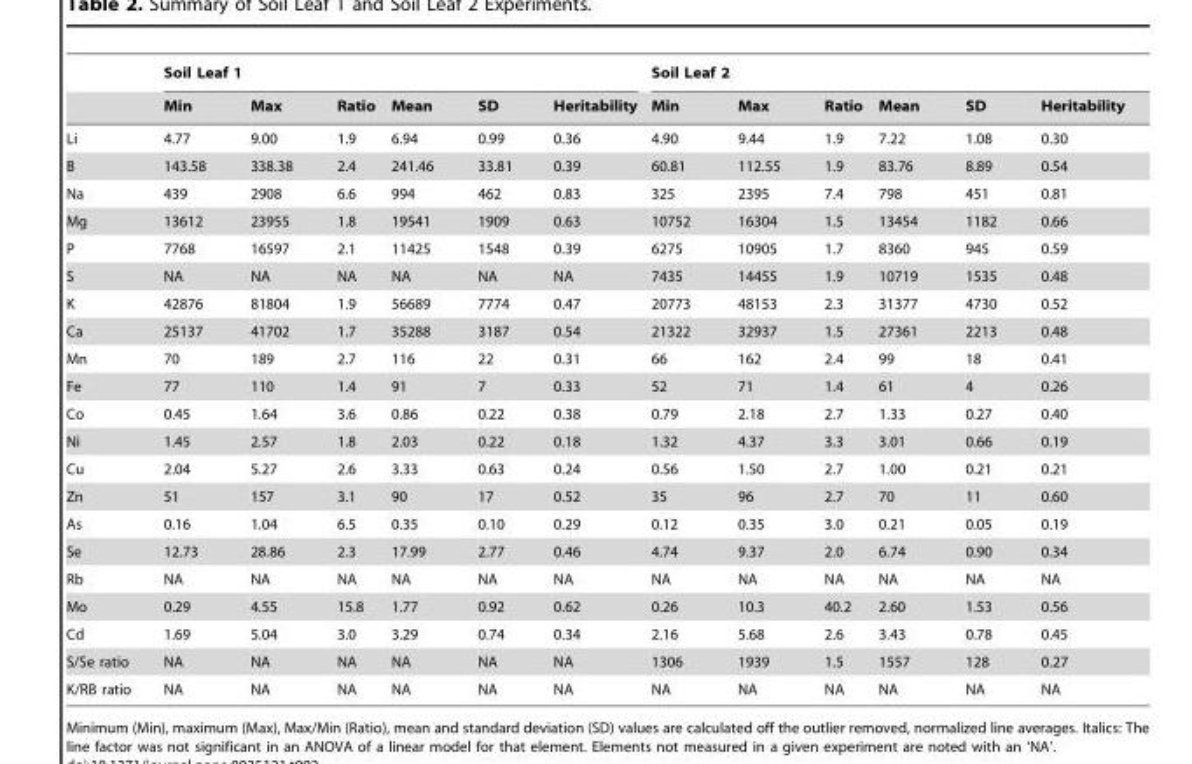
<table><thead><tr><td rowspan="2"></td><td colspan="6">Soil Leaf 1</td><td colspan="6">Soil Leaf 2</td></tr><tr><td>Min</td><td>Max</td><td>Ratio</td><td>Mean</td><td>SD</td><td>Heritability</td><td>Min</td><td>Max</td><td>Ratio</td><td>Mean</td><td>SD</td><td>Heritability</td></tr></thead><tbody><tr><td>Li</td><td>4.77</td><td>9.00</td><td>1.9</td><td>6.94</td><td>0.99</td><td>0.36</td><td>4.90</td><td>9.44</td><td>1.9</td><td>7.22</td><td>1.08</td><td>0.30</td></tr><tr><td>B</td><td>143.58</td><td>338.38</td><td>2.4</td><td>241.46</td><td>33.81</td><td>0.39</td><td>60.81</td><td>112.55</td><td>1.9</td><td>83.76</td><td>8.89</td><td>0.54</td></tr><tr><td>Na</td><td>439</td><td>2908</td><td>6.6</td><td>994</td><td>462</td><td>0.83</td><td>325</td><td>2395</td><td>7.4</td><td>798</td><td>451</td><td>0.81</td></tr><tr><td>Mg</td><td>13612</td><td>23955</td><td>1.8</td><td>19541</td><td>1909</td><td>0.63</td><td>10752</td><td>16304</td><td>1.5</td><td>13454</td><td>1182</td><td>0.66</td></tr><tr><td>P</td><td>7768</td><td>16597</td><td>2.1</td><td>11425</td><td>1548</td><td>0.39</td><td>6275</td><td>10905</td><td>1.7</td><td>8360</td><td>945</td><td>0.59</td></tr><tr><td>S</td><td>NA</td><td>NA</td><td>NA</td><td>NA</td><td>NA</td><td>NA</td><td>7435</td><td>14455</td><td>1.9</td><td>10719</td><td>1535</td><td>0.48</td></tr><tr><td>K</td><td>42876</td><td>81804</td><td>1.9</td><td>56689</td><td>7774</td><td>0.47</td><td>20773</td><td>48153</td><td>2.3</td><td>31377</td><td>4730</td><td>0.52</td></tr><tr><td>Ca</td><td>25137</td><td>41702</td><td>1.7</td><td>35288</td><td>3187</td><td>0.54</td><td>21322</td><td>32937</td><td>1.5</td><td>27361</td><td>2213</td><td>0.48</td></tr><tr><td>Mn</td><td>70</td><td>189</td><td>2.7</td><td>116</td><td>22</td><td>0.31</td><td>66</td><td>162</td><td>2.4</td><td>99</td><td>18</td><td>0.41</td></tr><tr><td>Fe</td><td>77</td><td>110</td><td>1.4</td><td>91</td><td>7</td><td>0.33</td><td>52</td><td>71</td><td>1.4</td><td>61</td><td>4</td><td>0.26</td></tr><tr><td>Co</td><td>0.45</td><td>1.64</td><td>3.6</td><td>0.86</td><td>0.22</td><td>0.38</td><td>0.79</td><td>2.18</td><td>2.7</td><td>1.33</td><td>0.27</td><td>0.40</td></tr><tr><td>Ni</td><td>1.45</td><td>2.57</td><td>1.8</td><td>2.03</td><td>0.22</td><td>0.18</td><td>1.32</td><td>4.37</td><td>3.3</td><td>3.01</td><td>0.66</td><td>0.19</td></tr><tr><td>Cu</td><td>2.04</td><td>5.27</td><td>2.6</td><td>3.33</td><td>0.63</td><td>0.24</td><td>0.56</td><td>1.50</td><td>2.7</td><td>1.00</td><td>0.21</td><td>0.21</td></tr><tr><td>Zn</td><td>51</td><td>157</td><td>3.1</td><td>90</td><td>17</td><td>0.52</td><td>35</td><td>96</td><td>2.7</td><td>70</td><td>11</td><td>0.60</td></tr><tr><td>As</td><td>0.16</td><td>1.04</td><td>6.5</td><td>0.35</td><td>0.10</td><td>0.29</td><td>0.12</td><td>0.35</td><td>3.0</td><td>0.21</td><td>0.05</td><td>0.19</td></tr><tr><td>Se</td><td>12.73</td><td>28.86</td><td>2.3</td><td>17.99</td><td>2.77</td><td>0.46</td><td>4.74</td><td>9.37</td><td>2.0</td><td>6.74</td><td>0.90</td><td>0.34</td></tr><tr><td>Rb</td><td>NA</td><td>NA</td><td>NA</td><td>NA</td><td>NA</td><td>NA</td><td>NA</td><td>NA</td><td>NA</td><td>NA</td><td>NA</td><td>NA</td></tr><tr><td>Mo</td><td>0.29</td><td>4.55</td><td>15.8</td><td>1.77</td><td>0.92</td><td>0.62</td><td>0.26</td><td>10.3</td><td>40.2</td><td>2.60</td><td>1.53</td><td>0.56</td></tr><tr><td>Cd</td><td>1.69</td><td>5.04</td><td>3.0</td><td>3.29</td><td>0.74</td><td>0.34</td><td>2.16</td><td>5.68</td><td>2.6</td><td>3.43</td><td>0.78</td><td>0.45</td></tr><tr><td>S/Se ratio</td><td>NA</td><td>NA</td><td>NA</td><td>NA</td><td>NA</td><td>NA</td><td>1306</td><td>1939</td><td>1.5</td><td>1557</td><td>128</td><td>0.27</td></tr><tr><td>K/RB ratio</td><td>NA</td><td>NA</td><td>NA</td><td>NA</td><td>NA</td><td>NA</td><td>NA</td><td>NA</td><td>NA</td><td>NA</td><td>NA</td><td>NA</td></tr></tbody></table>